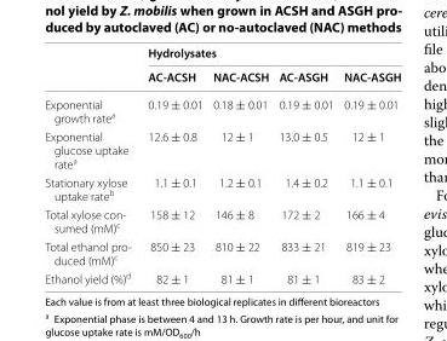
<table><thead><tr><td rowspan="2"></td><td colspan="4">Hydrolysates</td></tr><tr><td>AC-ACSH</td><td>NAC-ACSH</td><td>AC-ASGH</td><td>NAC-ASGH</td></tr></thead><tbody><tr><td>Exponential growth rate<sup>a</sup></td><td>0.19 ± 0.01</td><td>0.18 ± 0.01</td><td>0.19 ± 0.01</td><td>0.19 ± 0.01</td></tr><tr><td>Exponential glucose uptake rate<sup>a</sup></td><td>12.6 ± 0.8</td><td>12 ± 1</td><td>13.0 ± 0.5</td><td>12 ± 1</td></tr><tr><td>Stationary xylose uptake rate<sup>b</sup></td><td>1.1 ± 0.1</td><td>1.2 ± 0.1</td><td>1.4 ± 0.2</td><td>1.1 ± 0.1</td></tr><tr><td>Total xylose con- sumed (mM)c</td><td>158 ± 12</td><td>146 ± 8</td><td>172 ± 2</td><td>166 ± 4</td></tr><tr><td>Total ethanol pro- duced (mM)c</td><td>850 ± 23</td><td>810 ± 22</td><td>833 ± 21</td><td>819 ± 23</td></tr><tr><td>Ethanol yield (%)<sup>d</sup></td><td>82 ± 1</td><td>81 ± 1</td><td>81 ± 1</td><td>83 ± 2</td></tr></tbody></table>